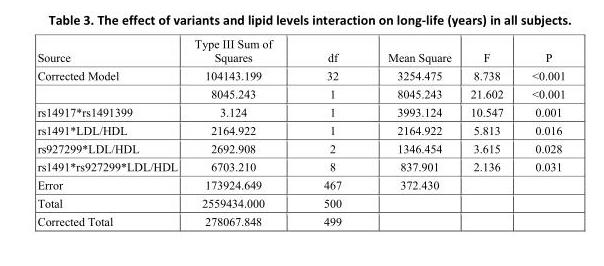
<table><thead><tr><td>Source</td><td>Type III Sum of Squares</td><td>df</td><td>Mean Square</td><td>F</td><td>P</td></tr></thead><tbody><tr><td rowspan="2">Corrected Model</td><td>104143.199</td><td>32</td><td>3254.475</td><td>8.738</td><td>&lt;0.001</td></tr><tr><td>8045.243</td><td>1</td><td>8045.243</td><td>21.602</td><td>&lt;0.001</td></tr><tr><td>rs14917*rs1491399</td><td>3.124</td><td>1</td><td>3993.124</td><td>10.547</td><td>0.001</td></tr><tr><td>rs1491*LDL/HDL</td><td>2164.922</td><td>1</td><td>2164.922</td><td>5.813</td><td>0.016</td></tr><tr><td>rs927299*LDL/HDL</td><td>2692.908</td><td>2</td><td>1346.454</td><td>3.615</td><td>0.028</td></tr><tr><td>rs1491*rs927299*LDL/HDL</td><td>6703.210</td><td>8</td><td>837.901</td><td>2.136</td><td>0.031</td></tr><tr><td>Error</td><td>173924.649</td><td>467</td><td>372.430</td><td></td><td></td></tr><tr><td>Total</td><td>2559434.000</td><td>500</td><td></td><td></td><td></td></tr><tr><td>Corrected Total</td><td>278067.848</td><td>499</td><td></td><td></td><td></td></tr></tbody></table>